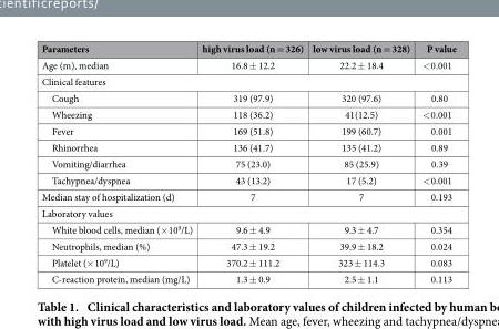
<table><thead><tr><td>Parameters</td><td>high virus load (n = 326)</td><td>low virus load (n = 328)</td><td>P value</td></tr></thead><tbody><tr><td>Age (m), median</td><td>16.8 ± 12.2</td><td>22.2 ± 18.4</td><td>&lt; 0.001</td></tr><tr><td colspan="4">Clinical features</td></tr><tr><td>Cough</td><td>319 (97.9)</td><td>320 (97.6)</td><td>0.80</td></tr><tr><td>Wheezing</td><td>118 (36.2)</td><td>41(12.5)</td><td>&lt; 0.001</td></tr><tr><td>Fever</td><td>169 (51.8)</td><td>199 (60.7)</td><td>0.001</td></tr><tr><td>Rhinorrhea</td><td>136 (41.7)</td><td>135 (41.2)</td><td>0.89</td></tr><tr><td>Vomiting/diarrhea</td><td>75 (23.0)</td><td>85 (25.9)</td><td>0.39</td></tr><tr><td>Tachypnea/dyspnea</td><td>43 (13.2)</td><td>17 (5.2)</td><td>&lt; 0.001</td></tr><tr><td>Median stay of hospitalization (d)</td><td>7</td><td>7</td><td>0.193</td></tr><tr><td colspan="4">Laboratory values</td></tr><tr><td>White blood cells, median (× 10<sup>9</sup>/L)</td><td>9.6 ± 4.9</td><td>9.3 ± 4.7</td><td>0.354</td></tr><tr><td>Neutrophils, median (%)</td><td>47.3 ± 19.2</td><td>39.9 ± 18.2</td><td>0.024</td></tr><tr><td>Platelet (× 10<sup>9</sup>/L)</td><td>370.2 ± 111.2</td><td>323 ± 114.3</td><td>0.083</td></tr><tr><td>C-reaction protein, median (mg/L)</td><td>1.3 ± 0.9</td><td>2.5 ± 1.1</td><td>0.113</td></tr></tbody></table>